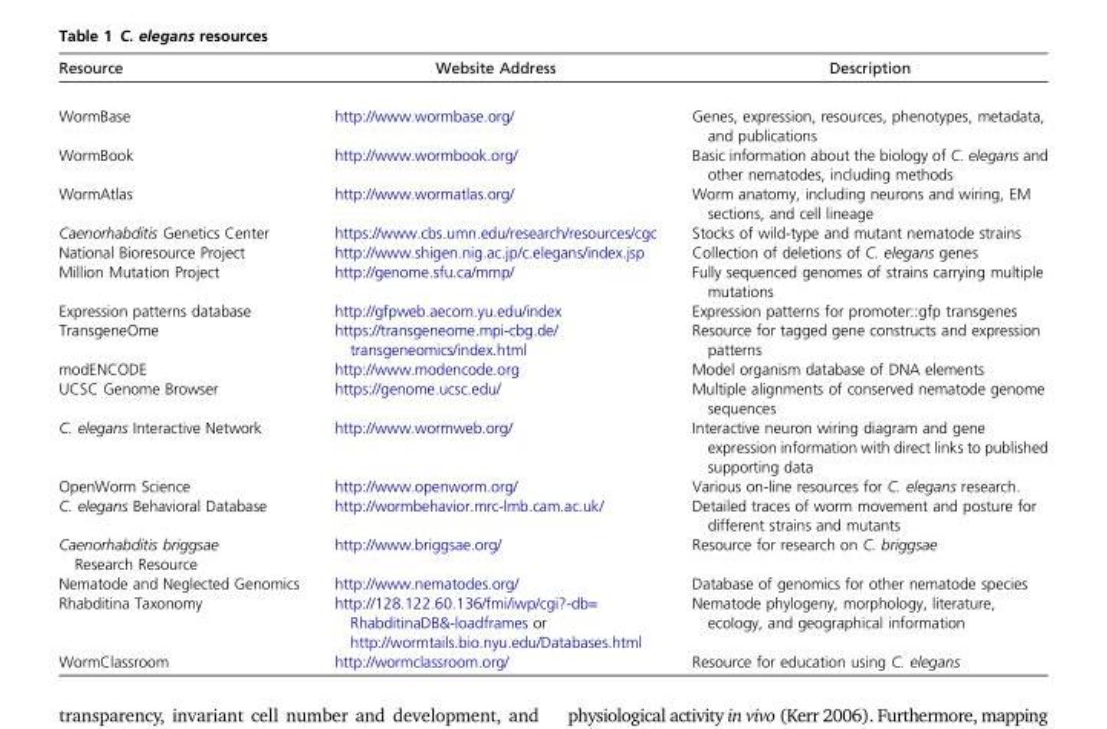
<table><thead><tr><td>Resource</td><td>Website Address</td><td>Description</td></tr></thead><tbody><tr><td>WormBase</td><td>http://www.wormbase.org/</td><td>Genes, expression, resources, phenotypes, metadata, and publications</td></tr><tr><td>WormBook</td><td>http://www.wormbook.org/</td><td>Basic information about the biology of C. elegans and other nematodes, including methods</td></tr><tr><td>WormAtlas</td><td>http://www.wormatlas.org/</td><td>Worm anatomy, including neurons and wiring, EM sections, and cell lineage</td></tr><tr><td>Caenorhabditis Genetics Center</td><td>https://www.cbs.umn.edu/research/resources/cgc</td><td>Stocks of wild-type and mutant nematode strains</td></tr><tr><td>National Bioresource Project</td><td>http://www.shigen.nig.ac.jp/c.elegans/index.jsp</td><td>Collection of deletions of C. elegans genes</td></tr><tr><td>Million Mutation Project</td><td>http://genome.sfu.ca/mmp/</td><td>Fully sequenced genomes of strains carrying multiple mutations</td></tr><tr><td>Expression patterns database</td><td>http://gfpweb.aecom.yu.edu/index</td><td>Expression patterns for promoter::gfp transgenes</td></tr><tr><td>TransgeneOme</td><td>https://transgeneome.mpi-cbg.de/ transgeneomics/index.html</td><td>Resource for tagged gene constructs and expression patterns</td></tr><tr><td>modENCODE</td><td>http://www.modencode.org</td><td>Model organism database of DNA elements</td></tr><tr><td>UCSC Genome Browser</td><td>https://genome.ucsc.edu/</td><td>Multiple alignments of conserved nematode genome sequences</td></tr><tr><td>C. elegans Interactive Network</td><td>http://www.wormweb.org/</td><td>Interactive neuron wiring diagram and gene expression information with direct links to published supporting data</td></tr><tr><td>OpenWorm Science</td><td>http://www.openworm.org/</td><td>Various on-line resources for C. elegans research.</td></tr><tr><td>C. elegans Behavioral Database</td><td>http://wormbehavior.mrc-lmb.cam.ac.uk/</td><td>Detailed traces of worm movement and posture for different strains and mutants</td></tr><tr><td>Caenorhabditis briggsae Research Resource</td><td>http://www.briggsae.org/</td><td>Resource for research on C. briggsae</td></tr><tr><td>Nematode and Neglected Genomics</td><td>http://www.nematodes.org/</td><td>Database of genomics for other nematode species</td></tr><tr><td>Rhabditina Taxonomy</td><td>http://128.122.60.136/fmi/iwp/cgi?-db= RhabditinaDB&amp;-loadframes or http://wormtails.bio.nyu.edu/Databases.html</td><td>Nematode phylogeny, morphology, literature, ecology, and geographical information</td></tr><tr><td>WormClassroom</td><td>http://wormclassroom.org/</td><td>Resource for education using C. elegans</td></tr></tbody></table>